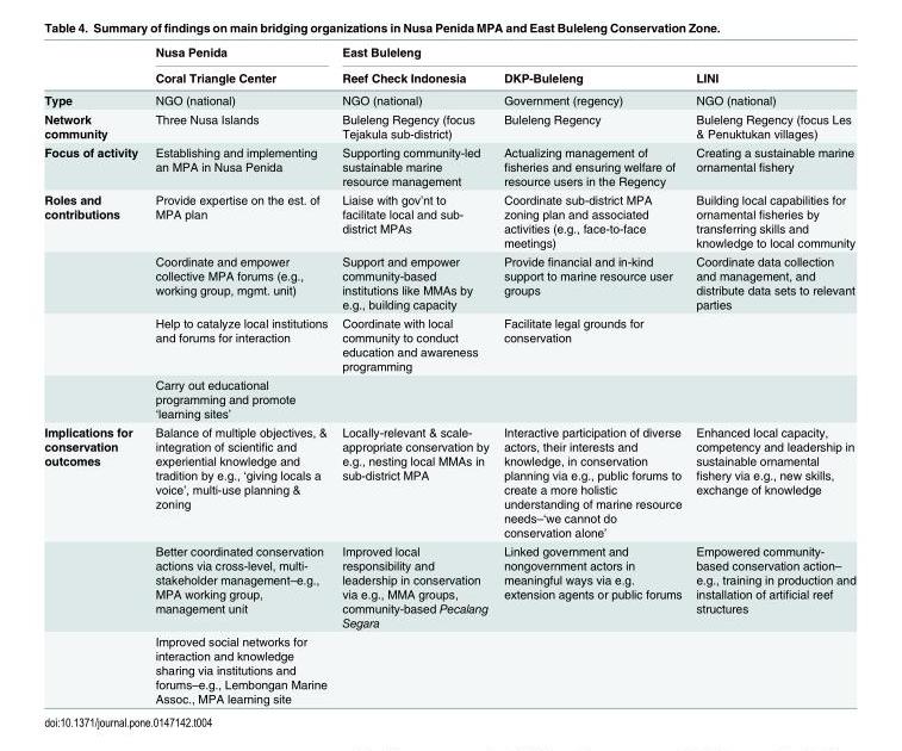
<table><thead><tr><td rowspan="2"></td><td rowspan="2">Nusa Penida Coral Triangle Center</td><td colspan="3">East Buleleng</td></tr><tr><td>Reef Check Indonesia</td><td>DKP-Buleleng</td><td>LINI</td></tr></thead><tbody><tr><td>Type</td><td>NGO (national)</td><td>NGO (national)</td><td>Government (regency)</td><td>NGO (national)</td></tr><tr><td>Network community</td><td>Three Nusa Islands</td><td>Buleleng Regency (focus Tejakula sub-district)</td><td>Buleleng Regency</td><td>Buleleng Regency (focus Les &amp; Penuktukan villages)</td></tr><tr><td>Focus of activity</td><td>Establishing and implementing an MPA in Nusa Penida</td><td>Supporting community-led sustainable marine resource management</td><td>Actualizing management of fisheries and ensuring welfare of resource users in the Regency</td><td>Creating a sustainable marine ornamental fishery</td></tr><tr><td rowspan="4">Roles and contributions</td><td>Provide expertise on the est. of MPA plan</td><td>Liaise with gov’nt to facilitate local and sub- district MPAs</td><td>Coordinate sub-district MPA zoning plan and associated activities (e.g., face-to-face meetings)</td><td>Building local capabilities for ornamental fisheries by transferring skills and knowledge to local community</td></tr><tr><td>Coordinate and empower collective MPA forums (e.g., working group, mgmt. unit)</td><td>Support and empower community-based institutions like MMAs by e.g., building capacity</td><td>Provide financial and in-kind support to marine resource user groups</td><td>Coordinate data collection and management, and distribute data sets to relevant parties</td></tr><tr><td>Help to catalyze local institutions and forums for interaction</td><td>Coordinate with local community to conduct education and awareness programming</td><td>Facilitate legal grounds for conservation</td><td></td></tr><tr><td>Carry out educational programming and promote ‘learning sites’</td><td></td><td></td><td></td></tr><tr><td rowspan="3">Implications for conservation outcomes</td><td>Balance of multiple objectives, &amp; integration of scientific and experiential knowledge and tradition by e.g., ‘giving locals a voice’, multi-use planning &amp; zoning</td><td>Locally-relevant &amp; scale- appropriate conservation by e.g., nesting local MMAs in sub-district MPA</td><td>Interactive participation of diverse actors, their interests and knowledge, in conservation planning via e.g., public forums to create a more holistic understanding of marine resource needs–‘we cannot do conservation alone’</td><td>Enhanced local capacity, competency and leadership in sustainable ornamental fishery via e.g., new skills, exchange of knowledge</td></tr><tr><td>Better coordinated conservation actions via cross-level, multi- stakeholder management–e.g., MPA working group, management unit</td><td>Improved local responsibility and leadership in conservation via e.g., MMA groups, community-based Pecalang Segara</td><td>Linked government and nongovernment actors in meaningful ways via e.g. extension agents or public forums</td><td>Empowered community- based conservation action– e.g., training in production and installation of artificial reef structures</td></tr><tr><td>Improved social networks for interaction and knowledge sharing via institutions and forums–e.g., Lembongan Marine Assoc., MPA learning site</td><td></td><td></td><td></td></tr></tbody></table>